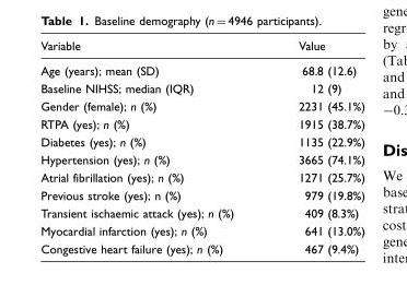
<table><thead><tr><td>Variable</td><td>Value</td></tr></thead><tbody><tr><td>Age (years); mean (SD)</td><td>68.8 (12.6)</td></tr><tr><td>Baseline NIHSS; median (IQR)</td><td>12 (9)</td></tr><tr><td>Gender (female); n (%)</td><td>2231 (45.1%)</td></tr><tr><td>RTPA (yes); n (%)</td><td>1915 (38.7%)</td></tr><tr><td>Diabetes (yes); n (%)</td><td>1135 (22.9%)</td></tr><tr><td>Hypertension (yes); n (%)</td><td>3665 (74.1%)</td></tr><tr><td>Atrial fibrillation (yes); n (%)</td><td>1271 (25.7%)</td></tr><tr><td>Previous stroke (yes); n (%)</td><td>979 (19.8%)</td></tr><tr><td>Transient ischaemic attack (yes); n (%)</td><td>409 (8.3%)</td></tr><tr><td>Myocardial infarction (yes); n (%)</td><td>641 (13.0%)</td></tr><tr><td>Congestive heart failure (yes); n (%)</td><td>467 (9.4%)</td></tr></tbody></table>